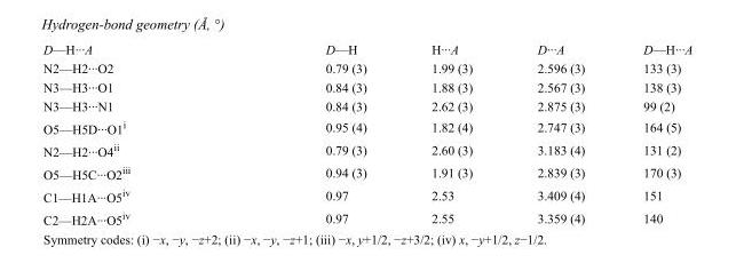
<table><tbody><tr><td>D—H···A</td><td>D—H</td><td>H···A</td><td>D···A</td><td>D—H···A</td></tr><tr><td>N2—H2···O2</td><td>0.79 (3)</td><td>1.99 (3)</td><td>2.596 (3)</td><td>133 (3)</td></tr><tr><td>N3—H3···O1</td><td>0.84 (3)</td><td>1.88 (3)</td><td>2.567 (3)</td><td>138 (3)</td></tr><tr><td>N3—H3···N1</td><td>0.84 (3)</td><td>2.62 (3)</td><td>2.875 (3)</td><td>99 (2)</td></tr><tr><td>O5—H5D···O1<sup>i</sup></td><td>0.95 (4)</td><td>1.82 (4)</td><td>2.747 (3)</td><td>164 (5)</td></tr><tr><td>N2—H2···O4<sup>ii</sup></td><td>0.79 (3)</td><td>2.60 (3)</td><td>3.183 (4)</td><td>131 (2)</td></tr><tr><td>O5—H5C···O2<sup>iii</sup></td><td>0.94 (3)</td><td>1.91 (3)</td><td>2.839 (3)</td><td>170 (3)</td></tr><tr><td>C1—H1A···O5<sup>iv</sup></td><td>0.97</td><td>2.53</td><td>3.409 (4)</td><td>151</td></tr><tr><td>C2—H2A···O5<sup>iv</sup></td><td>0.97</td><td>2.55</td><td>3.359 (4)</td><td>140</td></tr></tbody></table>